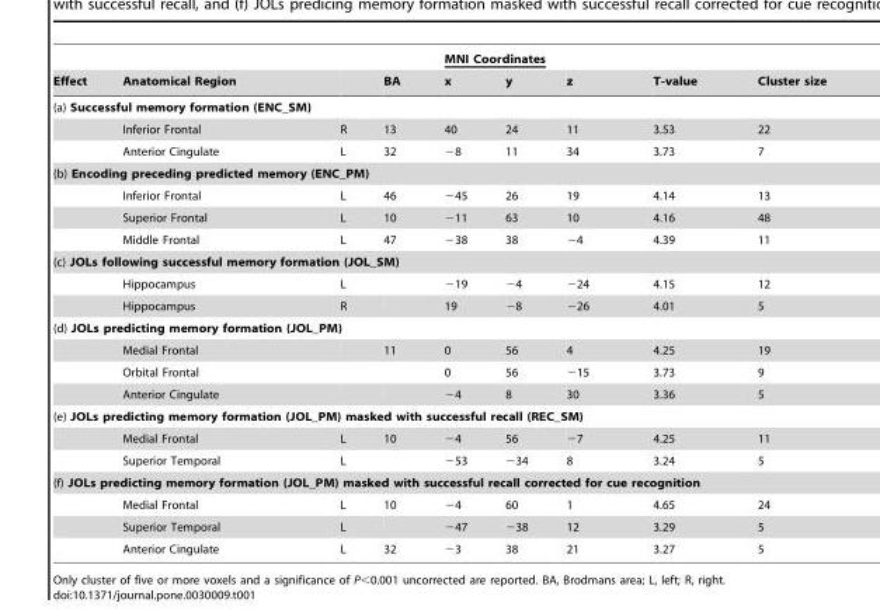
<table><thead><tr><td rowspan="2">Effect</td><td rowspan="2">Anatomical Region</td><td rowspan="2"></td><td rowspan="2">BA</td><td colspan="3">MNI Coordinates</td><td rowspan="2">T-value</td><td rowspan="2">Cluster size</td></tr><tr><td>x</td><td>y</td><td>z</td></tr></thead><tbody><tr><td colspan="9">(a) Successful memory formation (ENC_SM)</td></tr><tr><td></td><td>Inferior Frontal</td><td>R</td><td>13</td><td>40</td><td>24</td><td>11</td><td>3.53</td><td>22</td></tr><tr><td></td><td>Anterior Cingulate</td><td>L</td><td>32</td><td>−8</td><td>11</td><td>34</td><td>3.73</td><td>7</td></tr><tr><td colspan="9">(b) Encoding preceding predicted memory (ENC_PM)</td></tr><tr><td></td><td>Inferior Frontal</td><td>L</td><td>46</td><td>−45</td><td>26</td><td>19</td><td>4.14</td><td>13</td></tr><tr><td></td><td>Superior Frontal</td><td>L</td><td>10</td><td>−11</td><td>63</td><td>10</td><td>4.16</td><td>48</td></tr><tr><td></td><td>Middle Frontal</td><td>L</td><td>47</td><td>−38</td><td>38</td><td>−4</td><td>4.39</td><td>11</td></tr><tr><td colspan="9">(c) JOLs following successful memory formation (JOL_SM)</td></tr><tr><td></td><td>Hippocampus</td><td>L</td><td></td><td>−19</td><td>−4</td><td>−24</td><td>4.15</td><td>12</td></tr><tr><td></td><td>Hippocampus</td><td>R</td><td></td><td>19</td><td>−8</td><td>−26</td><td>4.01</td><td>5</td></tr><tr><td colspan="9">(d) JOLs predicting memory formation (JOL_PM)</td></tr><tr><td></td><td>Medial Frontal</td><td></td><td>11</td><td>0</td><td>56</td><td>4</td><td>4.25</td><td>19</td></tr><tr><td></td><td>Orbital Frontal</td><td></td><td></td><td>0</td><td>56</td><td>−15</td><td>3.73</td><td>9</td></tr><tr><td></td><td>Anterior Cingulate</td><td></td><td></td><td>−4</td><td>8</td><td>30</td><td>3.36</td><td>5</td></tr><tr><td colspan="9">(e) JOLs predicting memory formation (JOL_PM) masked with successful recall (REC_SM)</td></tr><tr><td></td><td>Medial Frontal</td><td>L</td><td>10</td><td>−4</td><td>56</td><td>−7</td><td>4.25</td><td>11</td></tr><tr><td></td><td>Superior Temporal</td><td>L</td><td></td><td>−53</td><td>−34</td><td>8</td><td>3.24</td><td>5</td></tr><tr><td colspan="9">(f) JOLs predicting memory formation (JOL_PM) masked with successful recall corrected for cue recognition</td></tr><tr><td></td><td>Medial Frontal</td><td>L</td><td>10</td><td>−4</td><td>60</td><td>1</td><td>4.65</td><td>24</td></tr><tr><td></td><td>Superior Temporal</td><td>L</td><td></td><td>−47</td><td>−38</td><td>12</td><td>3.29</td><td>5</td></tr><tr><td></td><td>Anterior Cingulate</td><td>L</td><td>32</td><td>−3</td><td>38</td><td>21</td><td>3.27</td><td>5</td></tr></tbody></table>